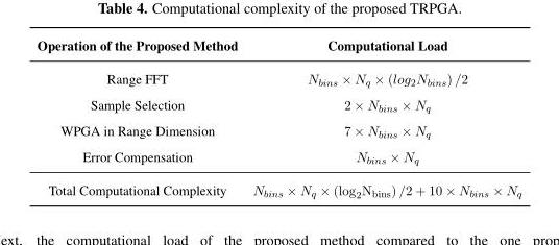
<table><thead><tr><td>Operation of the Proposed Method</td><td>Computational Load</td></tr></thead><tbody><tr><td>Range FFT</td><td>N<sub>bins</sub> × N<sub>q</sub> × (log<sub>2</sub>N<sub>bins</sub>) /2</td></tr><tr><td>Sample Selection</td><td>2 × N<sub>bins</sub> × N<sub>q</sub></td></tr><tr><td>WPGA in Range Dimension</td><td>7 × N<sub>bins</sub> × N<sub>q</sub></td></tr><tr><td>Error Compensation</td><td>N<sub>bins</sub> × N<sub>q</sub></td></tr><tr><td>Total Computational Complexity</td><td>N<sub>bins</sub> × N<sub>q</sub> × (log<sub>2</sub>N<sub>bins</sub>) /2 + 10 × N<sub>bins</sub> × N<sub>q</sub></td></tr></tbody></table>